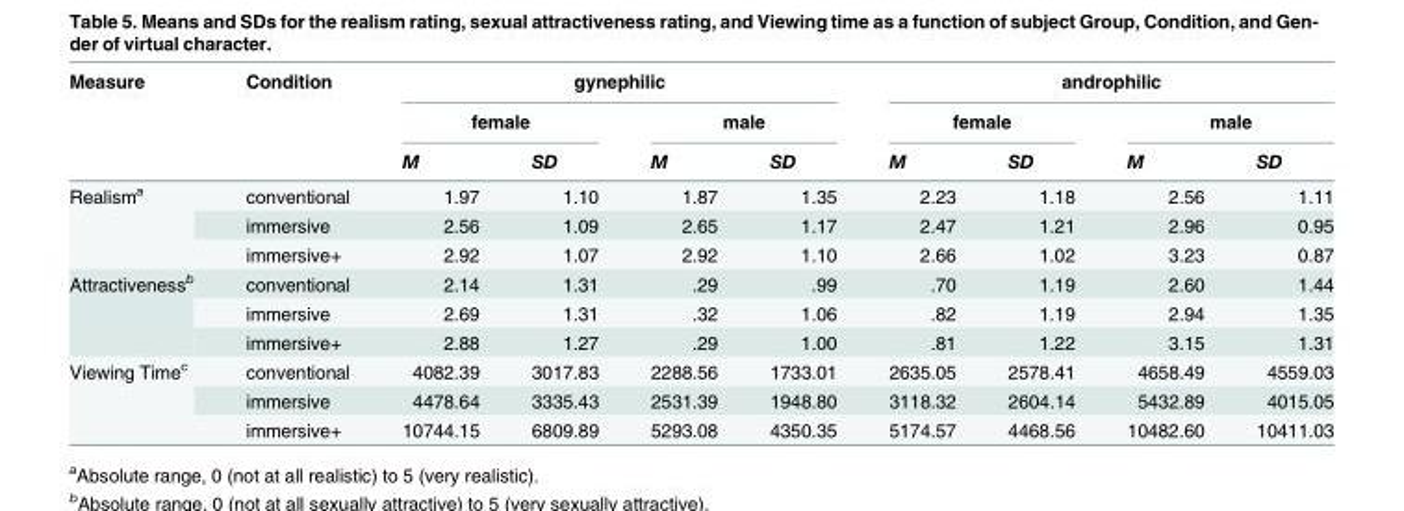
<table><thead><tr><td rowspan="3">Measure</td><td rowspan="3">Condition</td><td colspan="4">gynephilic</td><td colspan="4">androphilic</td></tr><tr><td colspan="2">female</td><td colspan="2">male</td><td colspan="2">female</td><td colspan="2">male</td></tr><tr><td>M</td><td>SD</td><td>M</td><td>SD</td><td>M</td><td>SD</td><td>M</td><td>SD</td></tr></thead><tbody><tr><td rowspan="3">Realism<sup>a</sup></td><td>conventional</td><td>1.97</td><td>1.10</td><td>1.87</td><td>1.35</td><td>2.23</td><td>1.18</td><td>2.56</td><td>1.11</td></tr><tr><td>immersive</td><td>2.56</td><td>1.09</td><td>2.65</td><td>1.17</td><td>2.47</td><td>1.21</td><td>2.96</td><td>0.95</td></tr><tr><td>immersive+</td><td>2.92</td><td>1.07</td><td>2.92</td><td>1.10</td><td>2.66</td><td>1.02</td><td>3.23</td><td>0.87</td></tr><tr><td rowspan="3">Attractiveness<sup>b</sup></td><td>conventional</td><td>2.14</td><td>1.31</td><td>.29</td><td>.99</td><td>.70</td><td>1.19</td><td>2.60</td><td>1.44</td></tr><tr><td>immersive</td><td>2.69</td><td>1.31</td><td>.32</td><td>1.06</td><td>.82</td><td>1.19</td><td>2.94</td><td>1.35</td></tr><tr><td>immersive+</td><td>2.88</td><td>1.27</td><td>.29</td><td>1.00</td><td>.81</td><td>1.22</td><td>3.15</td><td>1.31</td></tr><tr><td rowspan="3">Viewing Time<sup>c</sup></td><td>conventional</td><td>4082.39</td><td>3017.83</td><td>2288.56</td><td>1733.01</td><td>2635.05</td><td>2578.41</td><td>4658.49</td><td>4559.03</td></tr><tr><td>immersive</td><td>4478.64</td><td>3335.43</td><td>2531.39</td><td>1948.80</td><td>3118.32</td><td>2604.14</td><td>5432.89</td><td>4015.05</td></tr><tr><td>immersive+</td><td>10744.15</td><td>6809.89</td><td>5293.08</td><td>4350.35</td><td>5174.57</td><td>4468.56</td><td>10482.60</td><td>10411.03</td></tr></tbody></table>